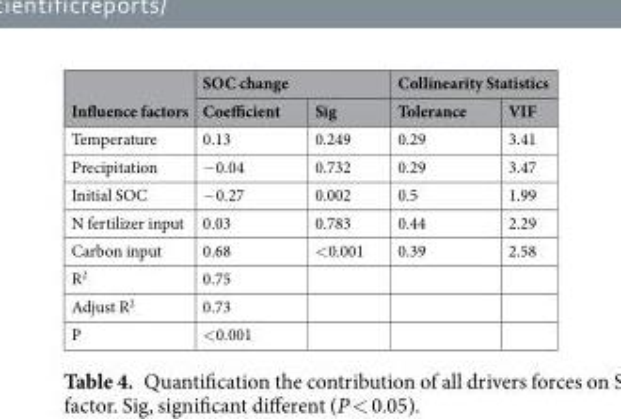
<table><thead><tr><td rowspan="2">Influence factors</td><td colspan="2">SOC change</td><td colspan="2">Collinearity Statistics</td></tr><tr><td>Coefficient</td><td>Sig</td><td>Tolerance</td><td>VIF</td></tr></thead><tbody><tr><td>Temperature</td><td>0.13</td><td>0.249</td><td>0.29</td><td>3.41</td></tr><tr><td>Precipitation</td><td>−0.04</td><td>0.732</td><td>0.29</td><td>3.47</td></tr><tr><td>Initial SOC</td><td>−0.27</td><td>0.002</td><td>0.5</td><td>1.99</td></tr><tr><td>N fertilizer input</td><td>0.03</td><td>0.783</td><td>0.44</td><td>2.29</td></tr><tr><td>Carbon input</td><td>0.68</td><td>&lt;0.001</td><td>0.39</td><td>2.58</td></tr><tr><td>R<sup>2</sup></td><td>0.75</td><td></td><td></td><td></td></tr><tr><td>Adjust R<sup>2</sup></td><td>0.73</td><td></td><td></td><td></td></tr><tr><td>P</td><td>&lt;0.001</td><td></td><td></td><td></td></tr></tbody></table>